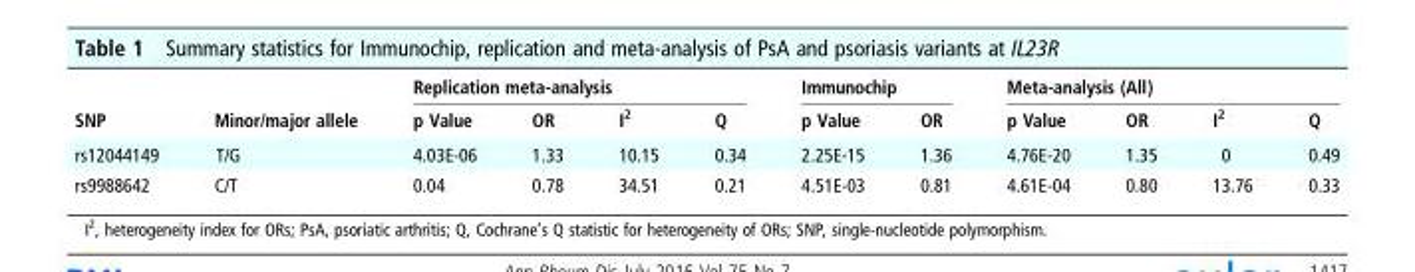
<table><thead><tr><td rowspan="2">SNP</td><td rowspan="2">Minor/major allele</td><td colspan="4">Replication meta-analysis</td><td colspan="2">Immunochip</td><td colspan="4">Meta-analysis (All)</td></tr><tr><td>p Value</td><td>OR</td><td>I<sup>2</sup></td><td>Q</td><td>p Value</td><td>OR</td><td>p Value</td><td>OR</td><td>I<sup>2</sup></td><td>Q</td></tr></thead><tbody><tr><td>rs12044149</td><td>T/G</td><td>4.03E-06</td><td>1.33</td><td>10.15</td><td>0.34</td><td>2.25E-15</td><td>1.36</td><td>4.76E-20</td><td>1.35</td><td>0</td><td>0.49</td></tr><tr><td>rs9988642</td><td>C/T</td><td>0.04</td><td>0.78</td><td>34.51</td><td>0.21</td><td>4.51E-03</td><td>0.81</td><td>4.61E-04</td><td>0.80</td><td>13.76</td><td>0.33</td></tr></tbody></table>